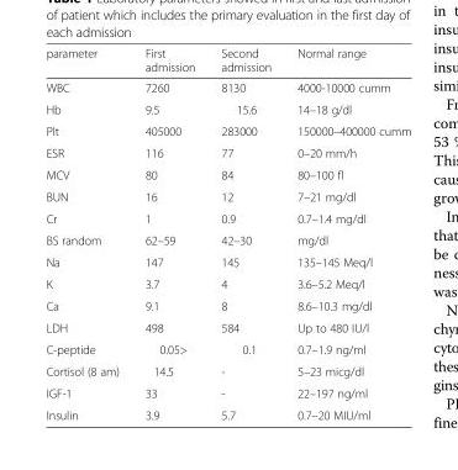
<table><thead><tr><td>parameter</td><td>First admission</td><td>Second admission</td><td>Normal range</td></tr></thead><tbody><tr><td>WBC</td><td>7260</td><td>8130</td><td>4000-10000 cumm</td></tr><tr><td>Hb</td><td>9.5</td><td>15.6</td><td>14–18 g/dl</td></tr><tr><td>Plt</td><td>405000</td><td>283000</td><td>150000–400000 cumm</td></tr><tr><td>ESR</td><td>116</td><td>77</td><td>0–20 mm/h</td></tr><tr><td>MCV</td><td>80</td><td>84</td><td>80–100 fl</td></tr><tr><td>BUN</td><td>16</td><td>12</td><td>7–21 mg/dl</td></tr><tr><td>Cr</td><td>1</td><td>0.9</td><td>0.7–1.4 mg/dl</td></tr><tr><td>BS random</td><td>62–59</td><td>42–30</td><td>mg/dl</td></tr><tr><td>Na</td><td>147</td><td>145</td><td>135–145 Meq/l</td></tr><tr><td>K</td><td>3.7</td><td>4</td><td>3.6–5.2 Meq/l</td></tr><tr><td>Ca</td><td>9.1</td><td>8</td><td>8.6–10.3 mg/dl</td></tr><tr><td>LDH</td><td>498</td><td>584</td><td>Up to 480 IU/l</td></tr><tr><td>C-peptide</td><td>0.05&gt;</td><td>0.1</td><td>0.7–1.9 ng/ml</td></tr><tr><td>Cortisol (8 am)</td><td>14.5</td><td>-</td><td>5–23 micg/dl</td></tr><tr><td>IGF-1</td><td>33</td><td>-</td><td>22–197 ng/ml</td></tr><tr><td>Insulin</td><td>3.9</td><td>5.7</td><td>0.7–20 MIU/ml</td></tr></tbody></table>